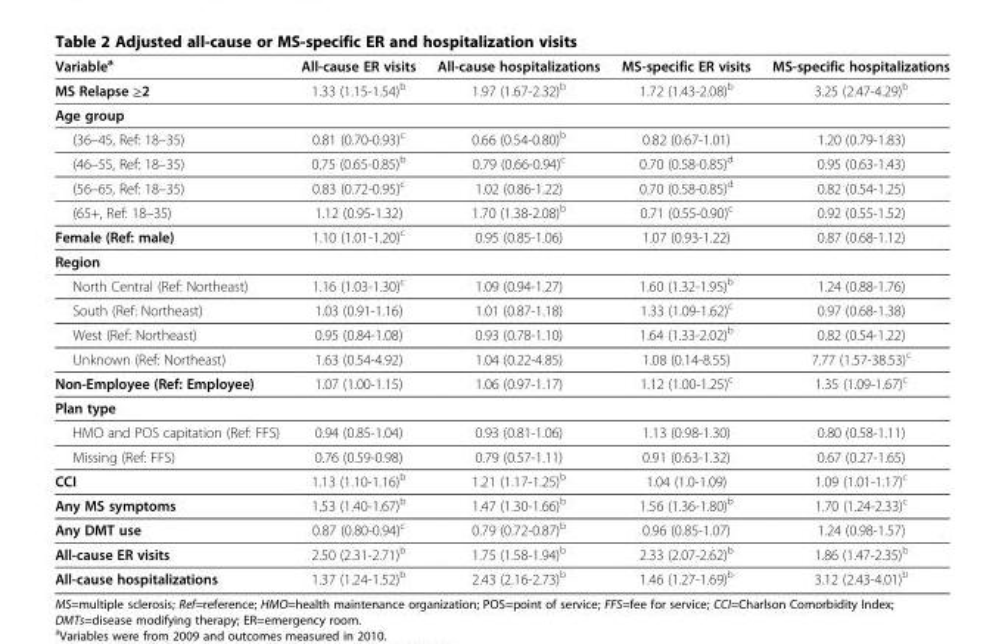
<table><thead><tr><td>Variable<sup>a</sup></td><td>All-cause ER visits</td><td>All-cause hospitalizations</td><td>MS-specific ER visits</td><td>MS-specific hospitalizations</td></tr></thead><tbody><tr><td>MS Relapse ≥2</td><td>1.33 (1.15-1.54)<sup>b</sup></td><td>1.97 (1.67-2.32)<sup>b</sup></td><td>1.72 (1.43-2.08)<sup>b</sup></td><td>3.25 (2.47-4.29)<sup>b</sup></td></tr><tr><td colspan="5">Age group</td></tr><tr><td>(36–45, Ref: 18–35)</td><td>0.81 (0.70-0.93)<sup>c</sup></td><td>0.66 (0.54-0.80)<sup>b</sup></td><td>0.82 (0.67-1.01)</td><td>1.20 (0.79-1.83)</td></tr><tr><td>(46–55, Ref: 18–35)</td><td>0.75 (0.65-0.85)<sup>b</sup></td><td>0.79 (0.66-0.94)<sup>c</sup></td><td>0.70 (0.58-0.85)<sup>d</sup></td><td>0.95 (0.63-1.43)</td></tr><tr><td>(56–65, Ref: 18–35)</td><td>0.83 (0.72-0.95)<sup>c</sup></td><td>1.02 (0.86-1.22)</td><td>0.70 (0.58-0.85)<sup>d</sup></td><td>0.82 (0.54-1.25)</td></tr><tr><td>(65+, Ref: 18–35)</td><td>1.12 (0.95-1.32)</td><td>1.70 (1.38-2.08)<sup>b</sup></td><td>0.71 (0.55-0.90)<sup>c</sup></td><td>0.92 (0.55-1.52)</td></tr><tr><td>Female (Ref: male)</td><td>1.10 (1.01-1.20)<sup>c</sup></td><td>0.95 (0.85-1.06)</td><td>1.07 (0.93-1.22)</td><td>0.87 (0.68-1.12)</td></tr><tr><td colspan="5">Region</td></tr><tr><td>North Central (Ref: Northeast)</td><td>1.16 (1.03-1.30)<sup>c</sup></td><td>1.09 (0.94-1.27)</td><td>1.60 (1.32-1.95)<sup>b</sup></td><td>1.24 (0.88-1.76)</td></tr><tr><td>South (Ref: Northeast)</td><td>1.03 (0.91-1.16)</td><td>1.01 (0.87-1.18)</td><td>1.33 (1.09-1.62)<sup>c</sup></td><td>0.97 (0.68-1.38)</td></tr><tr><td>West (Ref: Northeast)</td><td>0.95 (0.84-1.08)</td><td>0.93 (0.78-1.10)</td><td>1.64 (1.33-2.02)<sup>b</sup></td><td>0.82 (0.54-1.22)</td></tr><tr><td>Unknown (Ref: Northeast)</td><td>1.63 (0.54-4.92)</td><td>1.04 (0.22-4.85)</td><td>1.08 (0.14-8.55)</td><td>7.77 (1.57-38.53)<sup>c</sup></td></tr><tr><td>Non-Employee (Ref: Employee)</td><td>1.07 (1.00-1.15)</td><td>1.06 (0.97-1.17)</td><td>1.12 (1.00-1.25)<sup>c</sup></td><td>1.35 (1.09-1.67)<sup>c</sup></td></tr><tr><td colspan="5">Plan type</td></tr><tr><td>HMO and POS capitation (Ref: FFS)</td><td>0.94 (0.85-1.04)</td><td>0.93 (0.81-1.06)</td><td>1.13 (0.98-1.30)</td><td>0.80 (0.58-1.11)</td></tr><tr><td>Missing (Ref: FFS)</td><td>0.76 (0.59-0.98)</td><td>0.79 (0.57-1.11)</td><td>0.91 (0.63-1.32)</td><td>0.67 (0.27-1.65)</td></tr><tr><td>CCI</td><td>1.13 (1.10-1.16)<sup>b</sup></td><td>1.21 (1.17-1.25)<sup>b</sup></td><td>1.04 (1.0-1.09)</td><td>1.09 (1.01-1.17)<sup>c</sup></td></tr><tr><td>Any MS symptoms</td><td>1.53 (1.40-1.67)<sup>b</sup></td><td>1.47 (1.30-1.66)<sup>b</sup></td><td>1.56 (1.36-1.80)<sup>b</sup></td><td>1.70 (1.24-2.33)<sup>c</sup></td></tr><tr><td>Any DMT use</td><td>0.87 (0.80-0.94)<sup>c</sup></td><td>0.79 (0.72-0.87)<sup>b</sup></td><td>0.96 (0.85-1.07)</td><td>1.24 (0.98-1.57)</td></tr><tr><td>All-cause ER visits</td><td>2.50 (2.31-2.71)<sup>b</sup></td><td>1.75 (1.58-1.94)<sup>b</sup></td><td>2.33 (2.07-2.62)<sup>b</sup></td><td>1.86 (1.47-2.35)<sup>b</sup></td></tr><tr><td>All-cause hospitalizations</td><td>1.37 (1.24-1.52)<sup>b</sup></td><td>2.43 (2.16-2.73)<sup>b</sup></td><td>1.46 (1.27-1.69)<sup>b</sup></td><td>3.12 (2.43-4.01)<sup>b</sup></td></tr></tbody></table>